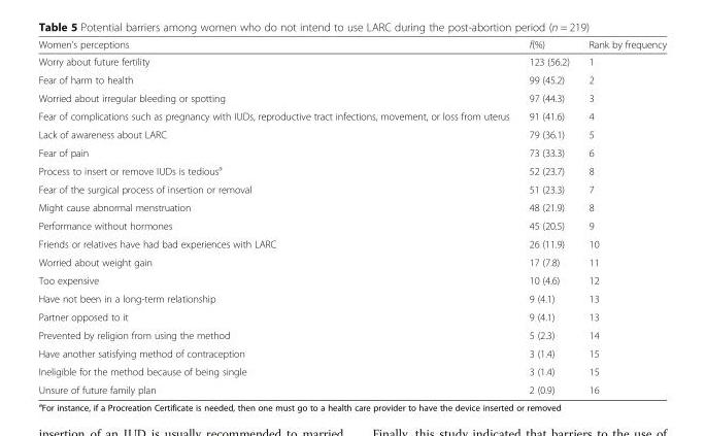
<table><thead><tr><td>Women’s perceptions</td><td>f(%)</td><td>Rank by frequency</td></tr></thead><tbody><tr><td>Worry about future fertility</td><td>123 (56.2)</td><td>1</td></tr><tr><td>Fear of harm to health</td><td>99 (45.2)</td><td>2</td></tr><tr><td>Worried about irregular bleeding or spotting</td><td>97 (44.3)</td><td>3</td></tr><tr><td>Fear of complications such as pregnancy with IUDs, reproductive tract infections, movement, or loss from uterus</td><td>91 (41.6)</td><td>4</td></tr><tr><td>Lack of awareness about LARC</td><td>79 (36.1)</td><td>5</td></tr><tr><td>Fear of pain</td><td>73 (33.3)</td><td>6</td></tr><tr><td>Process to insert or remove IUDs is tedious<sup>a</sup></td><td>52 (23.7)</td><td>8</td></tr><tr><td>Fear of the surgical process of insertion or removal</td><td>51 (23.3)</td><td>7</td></tr><tr><td>Might cause abnormal menstruation</td><td>48 (21.9)</td><td>8</td></tr><tr><td>Performance without hormones</td><td>45 (20.5)</td><td>9</td></tr><tr><td>Friends or relatives have had bad experiences with LARC</td><td>26 (11.9)</td><td>10</td></tr><tr><td>Worried about weight gain</td><td>17 (7.8)</td><td>11</td></tr><tr><td>Too expensive</td><td>10 (4.6)</td><td>12</td></tr><tr><td>Have not been in a long-term relationship</td><td>9 (4.1)</td><td>13</td></tr><tr><td>Partner opposed to it</td><td>9 (4.1)</td><td>13</td></tr><tr><td>Prevented by religion from using the method</td><td>5 (2.3)</td><td>14</td></tr><tr><td>Have another satisfying method of contraception</td><td>3 (1.4)</td><td>15</td></tr><tr><td>Ineligible for the method because of being single</td><td>3 (1.4)</td><td>15</td></tr><tr><td>Unsure of future family plan</td><td>2 (0.9)</td><td>16</td></tr></tbody></table>